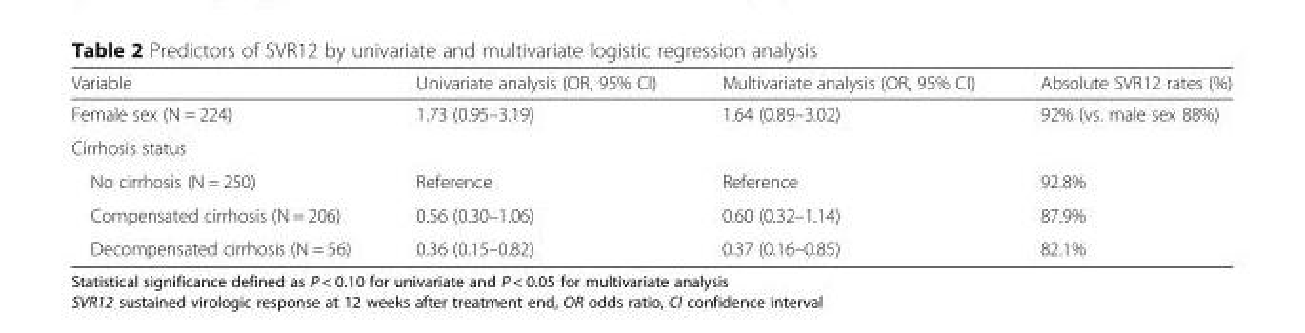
<table><thead><tr><td>Variable</td><td>Univariate analysis (OR, 95% CI)</td><td>Multivariate analysis (OR, 95% CI)</td><td>Absolute SVR12 rates (%)</td></tr></thead><tbody><tr><td>Female sex (N = 224)</td><td>1.73 (0.95–3.19)</td><td>1.64 (0.89–3.02)</td><td>92% (vs. male sex 88%)</td></tr><tr><td colspan="4">Cirrhosis status</td></tr><tr><td>No cirrhosis (N = 250)</td><td>Reference</td><td>Reference</td><td>92.8%</td></tr><tr><td>Compensated cirrhosis (N = 206)</td><td>0.56 (0.30–1.06)</td><td>0.60 (0.32–1.14)</td><td>87.9%</td></tr><tr><td>Decompensated cirrhosis (N = 56)</td><td>0.36 (0.15–0.82)</td><td>0.37 (0.16–0.85)</td><td>82.1%</td></tr></tbody></table>